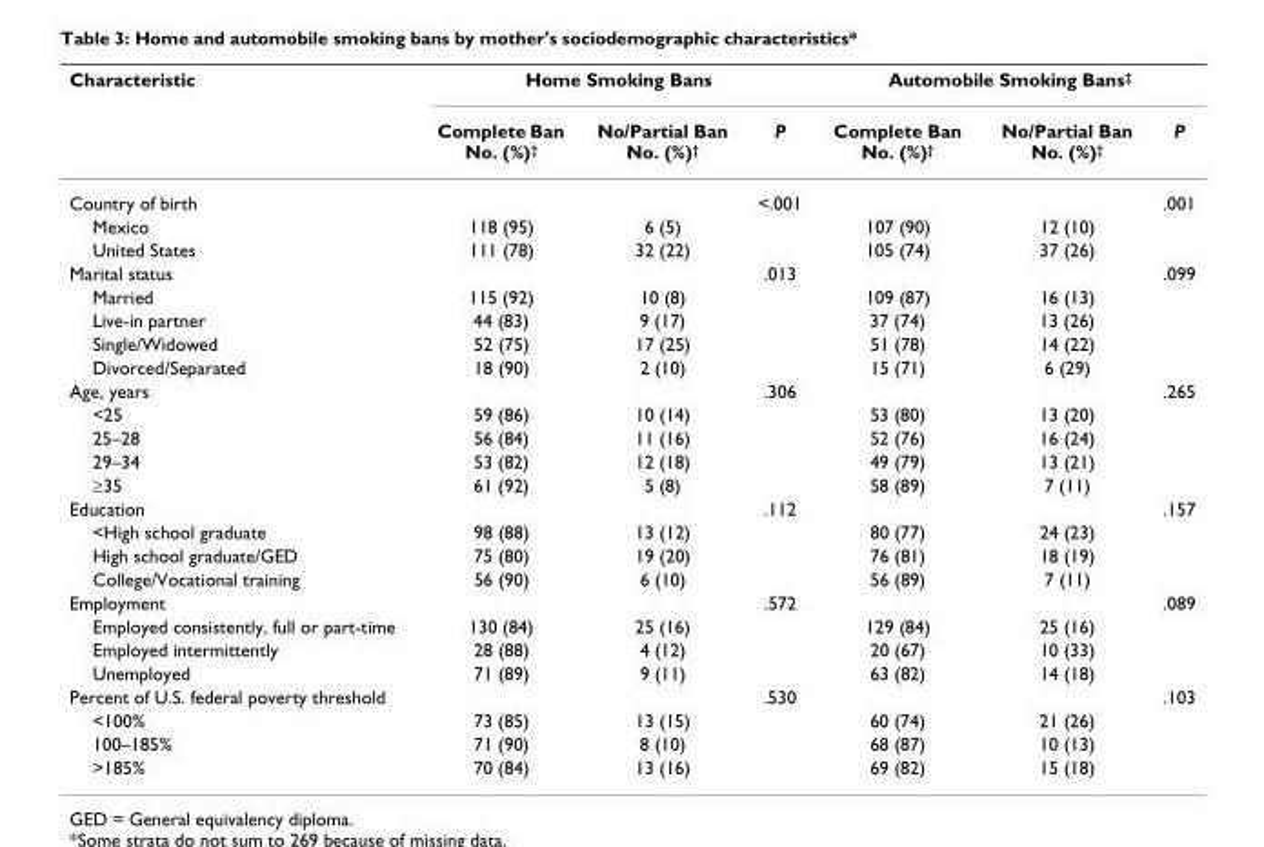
<table><thead><tr><td rowspan="2">Characteristic</td><td colspan="3">Home Smoking Bans</td><td colspan="3">Automobile Smoking Bans‡</td></tr><tr><td>Complete Ban No. (%)†</td><td>No/Partial Ban No. (%)†</td><td>P</td><td>Complete Ban No. (%)†</td><td>No/Partial Ban No. (%)†</td><td>P</td></tr></thead><tbody><tr><td>Country of birth</td><td></td><td></td><td>&lt;.001</td><td></td><td></td><td>.001</td></tr><tr><td>Mexico</td><td>118 (95)</td><td>6 (5)</td><td></td><td>107 (90)</td><td>12 (10)</td><td></td></tr><tr><td>United States</td><td>111 (78)</td><td>32 (22)</td><td></td><td>105 (74)</td><td>37 (26)</td><td></td></tr><tr><td>Marital status</td><td></td><td></td><td>.013</td><td></td><td></td><td>.099</td></tr><tr><td>Married</td><td>115 (92)</td><td>10 (8)</td><td></td><td>109 (87)</td><td>16 (13)</td><td></td></tr><tr><td>Live-in partner</td><td>44 (83)</td><td>9 (17)</td><td></td><td>37 (74)</td><td>13 (26)</td><td></td></tr><tr><td>Single/Widowed</td><td>52 (75)</td><td>17 (25)</td><td></td><td>51 (78)</td><td>14 (22)</td><td></td></tr><tr><td>Divorced/Separated</td><td>18 (90)</td><td>2 (10)</td><td></td><td>15 (71)</td><td>6 (29)</td><td></td></tr><tr><td>Age, years</td><td></td><td></td><td>.306</td><td></td><td></td><td>.265</td></tr><tr><td>&lt;25</td><td>59 (86)</td><td>10 (14)</td><td></td><td>53 (80)</td><td>13 (20)</td><td></td></tr><tr><td>25–28</td><td>56 (84)</td><td>11 (16)</td><td></td><td>52 (76)</td><td>16 (24)</td><td></td></tr><tr><td>29–34</td><td>53 (82)</td><td>12 (18)</td><td></td><td>49 (79)</td><td>13 (21)</td><td></td></tr><tr><td>≥35</td><td>61 (92)</td><td>5 (8)</td><td></td><td>58 (89)</td><td>7 (11)</td><td></td></tr><tr><td>Education</td><td></td><td></td><td>.112</td><td></td><td></td><td>.157</td></tr><tr><td>&lt;High school graduate</td><td>98 (88)</td><td>13 (12)</td><td></td><td>80 (77)</td><td>24 (23)</td><td></td></tr><tr><td>High school graduate/GED</td><td>75 (80)</td><td>19 (20)</td><td></td><td>76 (81)</td><td>18 (19)</td><td></td></tr><tr><td>College/Vocational training</td><td>56 (90)</td><td>6 (10)</td><td></td><td>56 (89)</td><td>7 (11)</td><td></td></tr><tr><td>Employment</td><td></td><td></td><td>.572</td><td></td><td></td><td>.089</td></tr><tr><td>Employed consistently, full or part-time</td><td>130 (84)</td><td>25 (16)</td><td></td><td>129 (84)</td><td>25 (16)</td><td></td></tr><tr><td>Employed intermittently</td><td>28 (88)</td><td>4 (12)</td><td></td><td>20 (67)</td><td>10 (33)</td><td></td></tr><tr><td>Unemployed</td><td>71 (89)</td><td>9 (11)</td><td></td><td>63 (82)</td><td>14 (18)</td><td></td></tr><tr><td>Percent of U.S. federal poverty threshold</td><td></td><td></td><td>.530</td><td></td><td></td><td>.103</td></tr><tr><td>&lt;100%</td><td>73 (85)</td><td>13 (15)</td><td></td><td>60 (74)</td><td>21 (26)</td><td></td></tr><tr><td>100–185%</td><td>71 (90)</td><td>8 (10)</td><td></td><td>68 (87)</td><td>10 (13)</td><td></td></tr><tr><td>&gt;185%</td><td>70 (84)</td><td>13 (16)</td><td></td><td>69 (82)</td><td>15 (18)</td><td></td></tr></tbody></table>